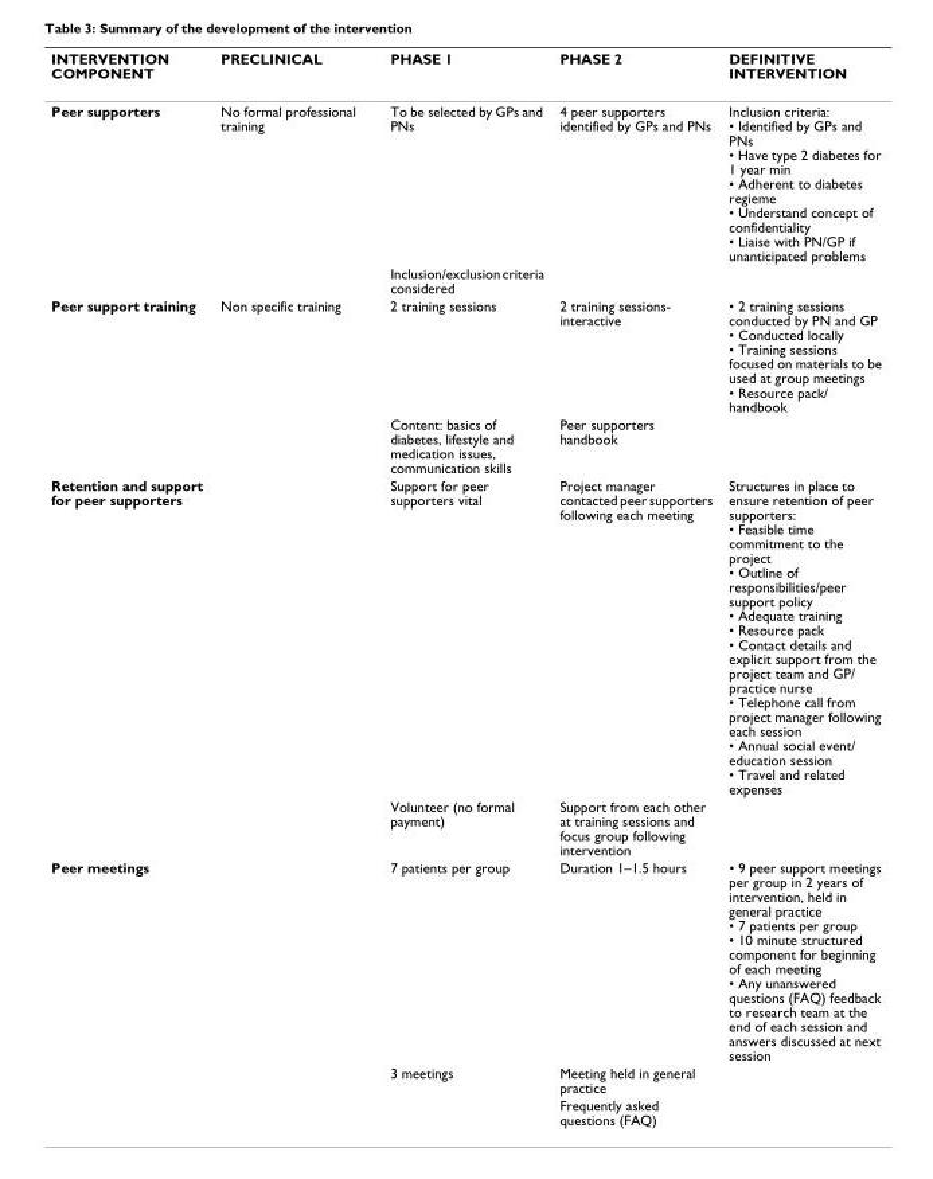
<table><thead><tr><td>INTERVENTION COMPONENT</td><td>PRECLINICAL</td><td>PHASE 1</td><td>PHASE 2</td><td>DEFINITIVE INTERVENTION</td></tr></thead><tbody><tr><td rowspan="2">Peer supporters</td><td>No formal professional training</td><td>To be selected by GPs and PNs</td><td>4 peer supporters identified by GPs and PNs</td><td>Inclusion criteria: • Identified by GPs and PNs • Have type 2 diabetes for 1 year min • Adherent to diabetes regieme • Understand concept of confidentiality • Liaise with PN/GP if unanticipated problems</td></tr><tr><td></td><td>Inclusion/exclusion criteria considered</td><td></td><td></td></tr><tr><td rowspan="2">Peer support training</td><td>Non specific training</td><td>2 training sessions</td><td>2 training sessions- interactive</td><td>• 2 training sessions conducted by PN and GP • Conducted locally • Training sessions focused on materials to be used at group meetings • Resource pack/ handbook</td></tr><tr><td></td><td>Content: basics of diabetes, lifestyle and medication issues, communication skills</td><td>Peer supporters handbook</td><td></td></tr><tr><td rowspan="2">Retention and support for peer supporters</td><td></td><td>Support for peer supporters vital</td><td>Project manager contacted peer supporters following each meeting</td><td>Structures in place to ensure retention of peer supporters: • Feasible time commitment to the project • Outline of responsibilities/peer support policy • Adequate training • Resource pack • Contact details and explicit support from the project team and GP/ practice nurse • Telephone call from project manager following each session • Annual social event/ education session • Travel and related expenses</td></tr><tr><td></td><td>Volunteer (no formal payment)</td><td>Support from each other at training sessions and focus group following intervention</td><td></td></tr><tr><td rowspan="3">Peer meetings</td><td></td><td>7 patients per group</td><td>Duration 1–1.5 hours</td><td>• 9 peer support meetings per group in 2 years of intervention, held in general practice • 7 patients per group • 10 minute structured component for beginning of each meeting • Any unanswered questions (FAQ) feedback to research team at the end of each session and answers discussed at next session</td></tr><tr><td></td><td>3 meetings</td><td>Meeting held in general practice</td><td></td></tr><tr><td></td><td></td><td>Frequently asked questions (FAQ)</td><td></td></tr></tbody></table>